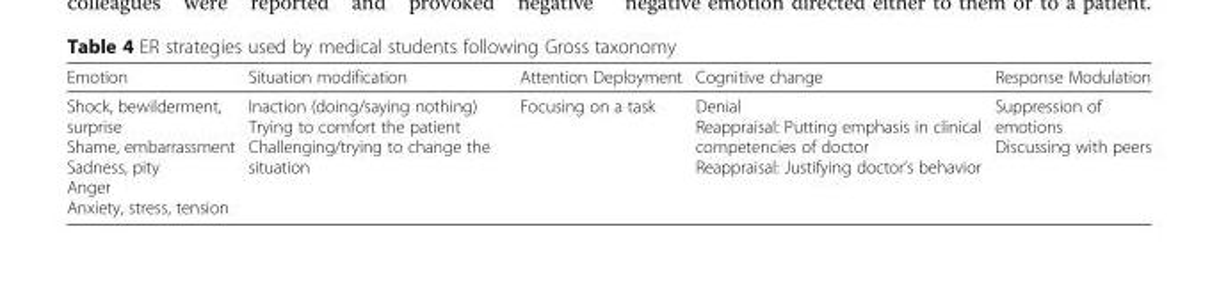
<table><thead><tr><td>Emotion</td><td>Situation modification</td><td>Attention Deployment</td><td>Cognitive change</td><td>Response Modulation</td></tr></thead><tbody><tr><td>Shock, bewilderment, surprise Shame, embarrassment Sadness, pity Anger Anxiety, stress, tension</td><td>Inaction (doing/saying nothing) Trying to comfort the patient Challenging/trying to change the situation</td><td>Focusing on a task</td><td>Denial Reappraisal: Putting emphasis in clinical competencies of doctor Reappraisal: Justifying doctor’s behavior</td><td>Suppression of emotions Discussing with peers</td></tr></tbody></table>